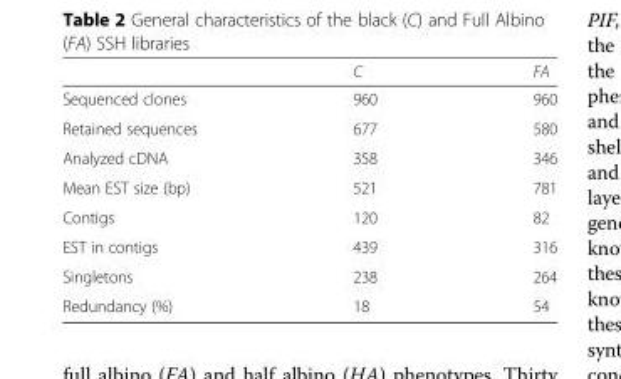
<table><thead><tr><td></td><td>C</td><td>FA</td></tr></thead><tbody><tr><td>Sequenced clones</td><td>960</td><td>960</td></tr><tr><td>Retained sequences</td><td>677</td><td>580</td></tr><tr><td>Analyzed cDNA</td><td>358</td><td>346</td></tr><tr><td>Mean EST size (bp)</td><td>521</td><td>781</td></tr><tr><td>Contigs</td><td>120</td><td>82</td></tr><tr><td>EST in contigs</td><td>439</td><td>316</td></tr><tr><td>Singletons</td><td>238</td><td>264</td></tr><tr><td>Redundancy (%)</td><td>18</td><td>54</td></tr></tbody></table>